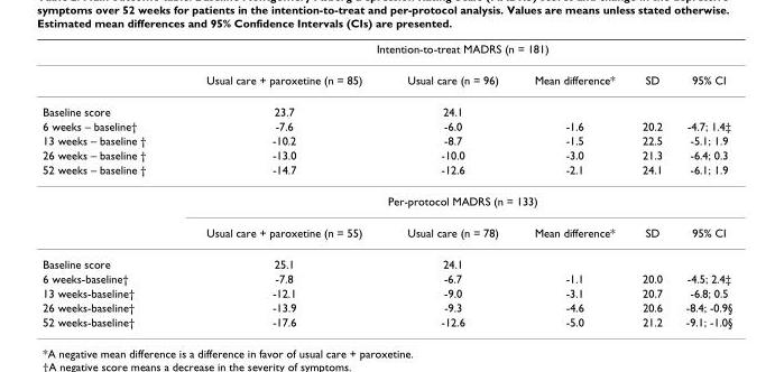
<table><thead><tr><td rowspan="2"></td><td colspan="5">Intention-to-treat MADRS (n = 181)</td></tr><tr><td>Usual care + paroxetine (n = 85)</td><td>Usual care (n = 96)</td><td>Mean difference*</td><td>SD</td><td>95% CI</td></tr></thead><tbody><tr><td>Baseline score</td><td>23.7</td><td>24.1</td><td></td><td></td><td></td></tr><tr><td>6 weeks – baseline†</td><td>-7.6</td><td>-6.0</td><td>-1.6</td><td>20.2</td><td>-4.7; 1.4‡</td></tr><tr><td>13 weeks – baseline †</td><td>-10.2</td><td>-8.7</td><td>-1.5</td><td>22.5</td><td>-5.1; 1.9</td></tr><tr><td>26 weeks – baseline †</td><td>-13.0</td><td>-10.0</td><td>-3.0</td><td>21.3</td><td>-6.4; 0.3</td></tr><tr><td rowspan="3">52 weeks – baseline †</td><td>-14.7</td><td>-12.6</td><td>-2.1</td><td>24.1</td><td>-6.1; 1.9</td></tr><tr><td colspan="5">Per-protocol MADRS (n = 133)</td></tr><tr><td>Usual care + paroxetine (n = 55)</td><td>Usual care (n = 78)</td><td>Mean difference*</td><td>SD</td><td>95% CI</td></tr><tr><td>Baseline score</td><td>25.1</td><td>24.1</td><td></td><td></td><td></td></tr><tr><td>6 weeks-baseline†</td><td>-7.8</td><td>-6.7</td><td>-1.1</td><td>20.0</td><td>-4.5; 2.4‡</td></tr><tr><td>13 weeks-baseline†</td><td>-12.1</td><td>-9.0</td><td>-3.1</td><td>20.7</td><td>-6.8; 0.5</td></tr><tr><td>26 weeks-baseline†</td><td>-13.9</td><td>-9.3</td><td>-4.6</td><td>20.6</td><td>-8.4; -0.9§</td></tr><tr><td>52 weeks-baseline†</td><td>-17.6</td><td>-12.6</td><td>-5.0</td><td>21.2</td><td>-9.1; -1.0§</td></tr></tbody></table>